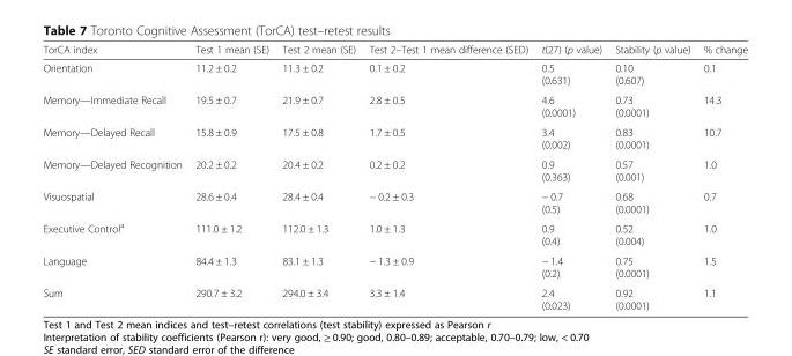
<table><thead><tr><td>TorCA index</td><td>Test 1 mean (SE)</td><td>Test 2 mean (SE)</td><td>Test 2–Test 1 mean difference (SED)</td><td>t(27) (p value)</td><td>Stability (p value)</td><td>% change</td></tr></thead><tbody><tr><td>Orientation</td><td>11.2 ± 0.2</td><td>11.3 ± 0.2</td><td>0.1 ± 0.2</td><td>0.5 (0.631)</td><td>0.10 (0.607)</td><td>0.1</td></tr><tr><td>Memory—Immediate Recall</td><td>19.5 ± 0.7</td><td>21.9 ± 0.7</td><td>2.8 ± 0.5</td><td>4.6 (0.0001)</td><td>0.73 (0.0001)</td><td>14.3</td></tr><tr><td>Memory—Delayed Recall</td><td>15.8 ± 0.9</td><td>17.5 ± 0.8</td><td>1.7 ± 0.5</td><td>3.4 (0.002)</td><td>0.83 (0.0001)</td><td>10.7</td></tr><tr><td>Memory—Delayed Recognition</td><td>20.2 ± 0.2</td><td>20.4 ± 0.2</td><td>0.2 ± 0.2</td><td>0.9 (0.363)</td><td>0.57 (0.001)</td><td>1.0</td></tr><tr><td>Visuospatial</td><td>28.6 ± 0.4</td><td>28.4 ± 0.4</td><td>− 0.2 ± 0.3</td><td>− 0.7 (0.5)</td><td>0.68 (0.0001)</td><td>0.7</td></tr><tr><td>Executive Control<sup>a</sup></td><td>111.0 ± 1.2</td><td>112.0 ± 1.3</td><td>1.0 ± 1.3</td><td>0.9 (0.4)</td><td>0.52 (0.004)</td><td>1.0</td></tr><tr><td>Language</td><td>84.4 ± 1.3</td><td>83.1 ± 1.3</td><td>− 1.3 ± 0.9</td><td>− 1.4 (0.2)</td><td>0.75 (0.0001)</td><td>1.5</td></tr><tr><td>Sum</td><td>290.7 ± 3.2</td><td>294.0 ± 3.4</td><td>3.3 ± 1.4</td><td>2.4 (0.023)</td><td>0.92 (0.0001)</td><td>1.1</td></tr></tbody></table>